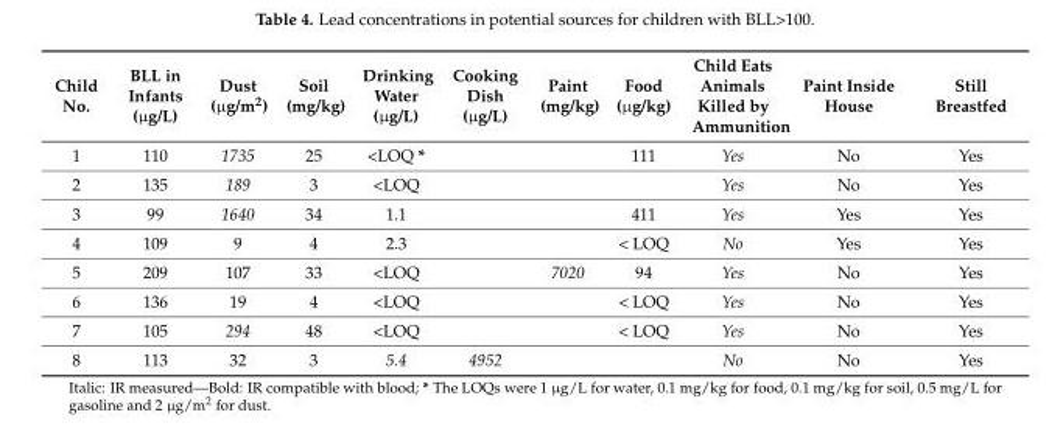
<table><thead><tr><td>Child No.</td><td>BLL in Infants (µg/L)</td><td>Dust (µg/m<sup>2</sup>)</td><td>Soil (mg/kg)</td><td>Drinking Water (µg/L)</td><td>Cooking Dish (µg/L)</td><td>Paint (mg/kg)</td><td>Food (µg/kg)</td><td>Child Eats Animals Killed by Ammunition</td><td>Paint Inside House</td><td>Still Breastfed</td></tr></thead><tbody><tr><td>1</td><td>110</td><td>1735</td><td>25</td><td>&lt;LOQ *</td><td></td><td></td><td>111</td><td>Yes</td><td>No</td><td>Yes</td></tr><tr><td>2</td><td>135</td><td>189</td><td>3</td><td>&lt;LOQ</td><td></td><td></td><td></td><td>Yes</td><td>No</td><td>Yes</td></tr><tr><td>3</td><td>99</td><td>1640</td><td>34</td><td>1.1</td><td></td><td></td><td>411</td><td>Yes</td><td>Yes</td><td>Yes</td></tr><tr><td>4</td><td>109</td><td>9</td><td>4</td><td>2.3</td><td></td><td></td><td>&lt; LOQ</td><td>No</td><td>Yes</td><td>Yes</td></tr><tr><td>5</td><td>209</td><td>107</td><td>33</td><td>&lt;LOQ</td><td></td><td>7020</td><td>94</td><td>Yes</td><td>No</td><td>Yes</td></tr><tr><td>6</td><td>136</td><td>19</td><td>4</td><td>&lt;LOQ</td><td></td><td></td><td>&lt; LOQ</td><td>Yes</td><td>No</td><td>Yes</td></tr><tr><td>7</td><td>105</td><td>294</td><td>48</td><td>&lt;LOQ</td><td></td><td></td><td>&lt; LOQ</td><td>Yes</td><td>No</td><td>Yes</td></tr><tr><td>8</td><td>113</td><td>32</td><td>3</td><td>5.4</td><td>4952</td><td></td><td></td><td>No</td><td>No</td><td>Yes</td></tr></tbody></table>